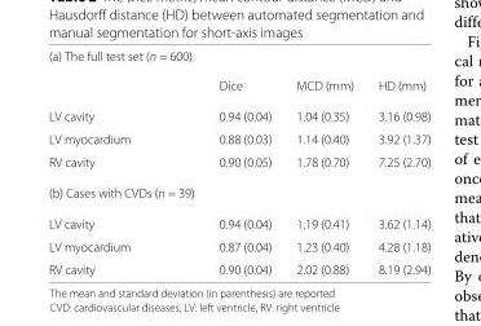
<table><tbody><tr><td colspan="4">(a) The full test set (n = 600)</td></tr><tr><td></td><td>Dice</td><td>MCD (mm)</td><td>HD (mm)</td></tr><tr><td>LV cavity</td><td>0.94 (0.04)</td><td>1.04 (0.35)</td><td>3.16 (0.98)</td></tr><tr><td>LV myocardium</td><td>0.88 (0.03)</td><td>1.14 (0.40)</td><td>3.92 (1.37)</td></tr><tr><td>RV cavity</td><td>0.90 (0.05)</td><td>1.78 (0.70)</td><td>7.25 (2.70)</td></tr><tr><td colspan="4">(b) Cases with CVDs (n = 39)</td></tr><tr><td>LV cavity</td><td>0.94 (0.04)</td><td>1.19 (0.41)</td><td>3.62 (1.14)</td></tr><tr><td>LV myocardium</td><td>0.87 (0.04)</td><td>1.23 (0.40)</td><td>4.28 (1.18)</td></tr><tr><td>RV cavity</td><td>0.90 (0.04)</td><td>2.02 (0.88)</td><td>8.19 (2.94)</td></tr></tbody></table>